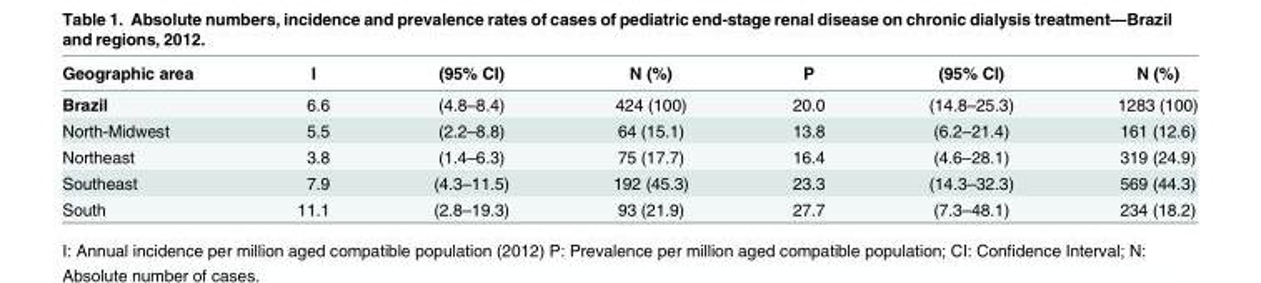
<table><thead><tr><td>Geographic area</td><td>I</td><td>(95% CI)</td><td>N (%)</td><td>P</td><td>(95% CI)</td><td>N (%)</td></tr></thead><tbody><tr><td>Brazil</td><td>6.6</td><td>(4.8–8.4)</td><td>424 (100)</td><td>20.0</td><td>(14.8–25.3)</td><td>1283 (100)</td></tr><tr><td>North-Midwest</td><td>5.5</td><td>(2.2–8.8)</td><td>64 (15.1)</td><td>13.8</td><td>(6.2–21.4)</td><td>161 (12.6)</td></tr><tr><td>Northeast</td><td>3.8</td><td>(1.4–6.3)</td><td>75 (17.7)</td><td>16.4</td><td>(4.6–28.1)</td><td>319 (24.9)</td></tr><tr><td>Southeast</td><td>7.9</td><td>(4.3–11.5)</td><td>192 (45.3)</td><td>23.3</td><td>(14.3–32.3)</td><td>569 (44.3)</td></tr><tr><td>South</td><td>11.1</td><td>(2.8–19.3)</td><td>93 (21.9)</td><td>27.7</td><td>(7.3–48.1)</td><td>234 (18.2)</td></tr></tbody></table>